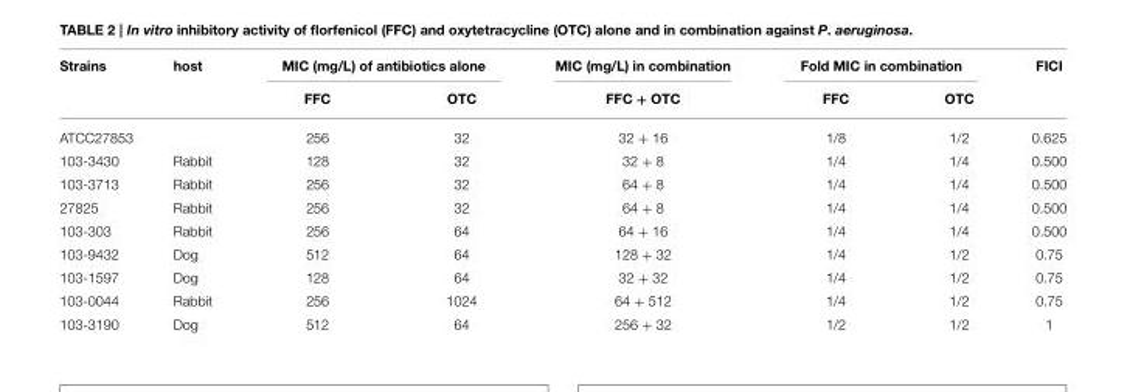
<table><thead><tr><td rowspan="2">Strains</td><td rowspan="2">host</td><td colspan="2">MIC (mg/L) of antibiotics alone</td><td rowspan="2">MIC (mg/L) in combination FFC + OTC</td><td colspan="2">Fold MIC in combination</td><td rowspan="2">FICI</td></tr><tr><td>FFC</td><td>OTC</td><td>FFC</td><td>OTC</td></tr></thead><tbody><tr><td>ATCC27853</td><td></td><td>256</td><td>32</td><td>32 + 16</td><td>1/8</td><td>1/2</td><td>0.625</td></tr><tr><td>103-3430</td><td>Rabbit</td><td>128</td><td>32</td><td>32 + 8</td><td>1/4</td><td>1/4</td><td>0.500</td></tr><tr><td>103-3713</td><td>Rabbit</td><td>256</td><td>32</td><td>64 + 8</td><td>1/4</td><td>1/4</td><td>0.500</td></tr><tr><td>27825</td><td>Rabbit</td><td>256</td><td>32</td><td>64 + 8</td><td>1/4</td><td>1/4</td><td>0.500</td></tr><tr><td>103-303</td><td>Rabbit</td><td>256</td><td>64</td><td>64 + 16</td><td>1/4</td><td>1/4</td><td>0.500</td></tr><tr><td>103-9432</td><td>Dog</td><td>512</td><td>64</td><td>128 + 32</td><td>1/4</td><td>1/2</td><td>0.75</td></tr><tr><td>103-1597</td><td>Dog</td><td>128</td><td>64</td><td>32 + 32</td><td>1/4</td><td>1/2</td><td>0.75</td></tr><tr><td>103-0044</td><td>Rabbit</td><td>256</td><td>1024</td><td>64 + 512</td><td>1/4</td><td>1/2</td><td>0.75</td></tr><tr><td>103-3190</td><td>Dog</td><td>512</td><td>64</td><td>256 + 32</td><td>1/2</td><td>1/2</td><td>1</td></tr></tbody></table>